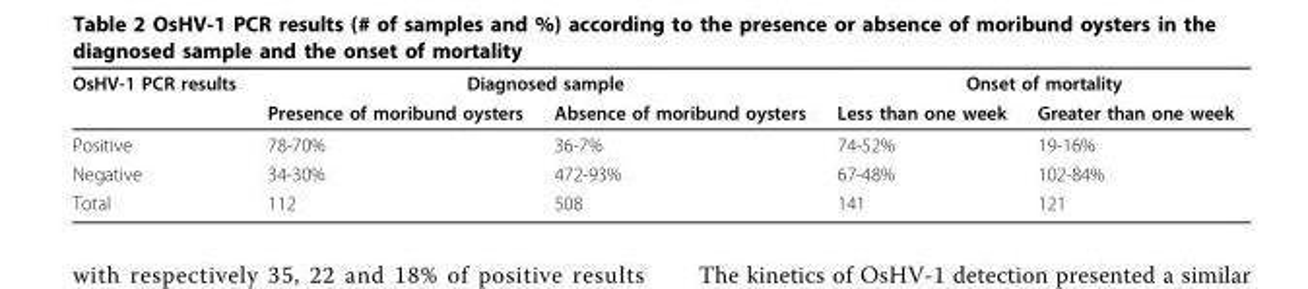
<table><thead><tr><td rowspan="2">OsHV-1 PCR results</td><td colspan="2">Diagnosed sample</td><td colspan="2">Onset of mortality</td></tr><tr><td>Presence of moribund oysters</td><td>Absence of moribund oysters</td><td>Less than one week</td><td>Greater than one week</td></tr></thead><tbody><tr><td>Positive</td><td>78-70%</td><td>36-7%</td><td>74-52%</td><td>19-16%</td></tr><tr><td>Negative</td><td>34-30%</td><td>472-93%</td><td>67-48%</td><td>102-84%</td></tr><tr><td>Total</td><td>112</td><td>508</td><td>141</td><td>121</td></tr></tbody></table>